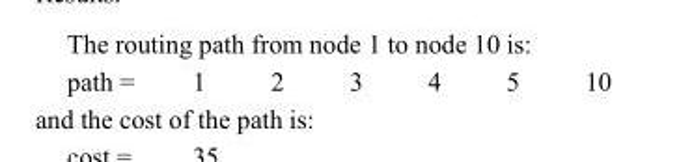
<table><tbody><tr><td>path =</td><td>1</td><td>2</td><td>3</td><td>4</td><td>5</td><td>10</td></tr></tbody></table>